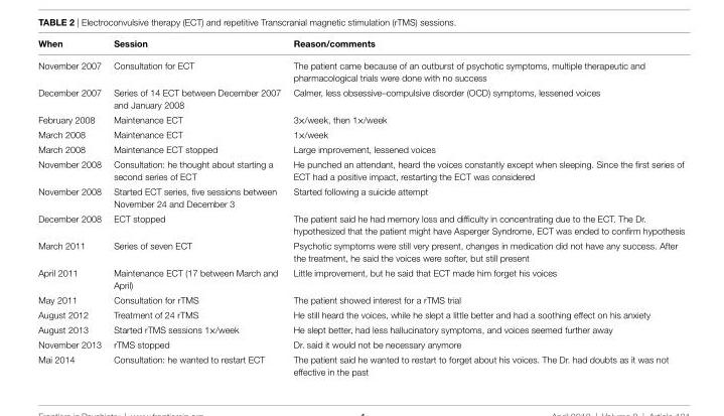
<table><thead><tr><td>When</td><td>session</td><td>Reason/comments</td></tr></thead><tbody><tr><td>November 2007</td><td>Consultation for ECT</td><td>The patient came because of an outburst of psychotic symptoms, multiple therapeutic and pharmacological trials were done with no success</td></tr><tr><td>December 2007</td><td>Series of 14 ECT between December 2007 and January 2008</td><td>Calmer, less obsessive–compulsive disorder (OCD) symptoms, lessened voices</td></tr><tr><td>February 2008</td><td>Maintenance ECT</td><td>3×/week, then 1×/week</td></tr><tr><td>March 2008</td><td>Maintenance ECT</td><td>1×/week</td></tr><tr><td>March 2008</td><td>Maintenance ECT stopped</td><td>Large improvement, lessened voices</td></tr><tr><td>November 2008</td><td>Consultation: he thought about starting a second series of ECT</td><td>He punched an attendant, heard the voices constantly except when sleeping. Since the first series of ECT had a positive impact, restarting the ECT was considered</td></tr><tr><td>November 2008</td><td>Started ECT series, five sessions between November 24 and December 3</td><td>Started following a suicide attempt</td></tr><tr><td>December 2008</td><td>ECT stopped</td><td>The patient said he had memory loss and difficulty in concentrating due to the ECT. The Dr. hypothesized that the patient might have Asperger Syndrome, ECT was ended to confirm hypothesis</td></tr><tr><td>March 2011</td><td>Series of seven ECT</td><td>Psychotic symptoms were still very present, changes in medication did not have any success. After the treatment, he said the voices were softer, but still present</td></tr><tr><td>April 2011</td><td>Maintenance ECT (17 between March and April)</td><td>Little improvement, but he said that ECT made him forget his voices</td></tr><tr><td>May 2011</td><td>Consultation for rTMS</td><td>The patient showed interest for a rTMS trial</td></tr><tr><td>August 2012</td><td>Treatment of 24 rTMS</td><td>He still heard the voices, while he slept a little better and had a soothing effect on his anxiety</td></tr><tr><td>August 2013</td><td>Started rTMS sessions 1×/week</td><td>He slept better, had less hallucinatory symptoms, and voices seemed further away</td></tr><tr><td>November 2013</td><td>rTMS stopped</td><td>Dr. said it would not be necessary anymore</td></tr><tr><td>Mai 2014</td><td>Consultation: he wanted to restart ECT</td><td>The patient said he wanted to restart to forget about his voices. The Dr. had doubts as it was not effective in the past</td></tr></tbody></table>